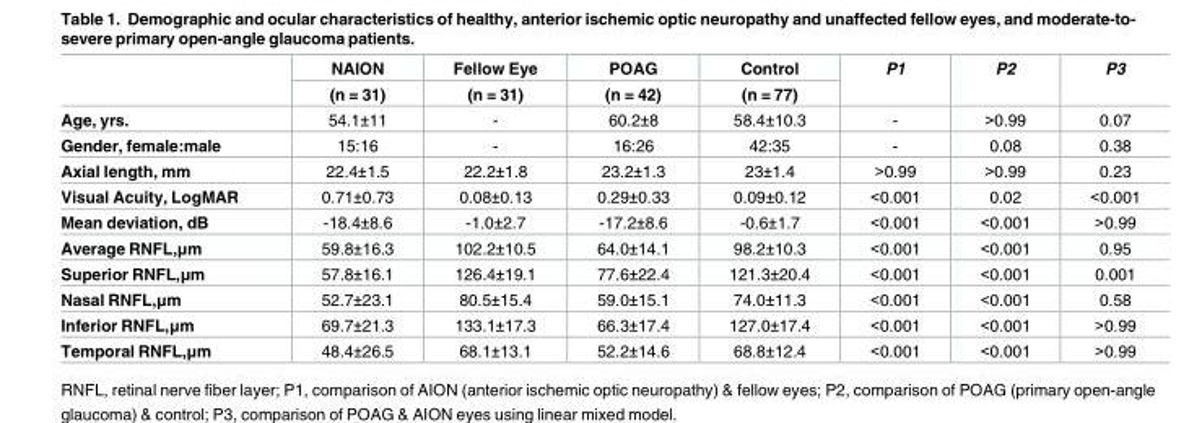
<table><thead><tr><td rowspan="2"></td><td rowspan="2">NAION (n = 31)</td><td rowspan="2">Fellow Eye (n = 31)</td><td rowspan="2">POAG (n = 42)</td><td rowspan="2">Control (n = 77)</td><td rowspan="2">P1</td><td rowspan="2">P2</td><td rowspan="2">P3</td></tr><tr></tr></thead><tbody><tr><td>Age, yrs.</td><td>54.1±11</td><td>-</td><td>60.2±8</td><td>58.4±10.3</td><td>-</td><td>&gt;0.99</td><td>0.07</td></tr><tr><td>Gender, female:male</td><td>15:16</td><td>-</td><td>16:26</td><td>42:35</td><td>-</td><td>0.08</td><td>0.38</td></tr><tr><td>Axial length, mm</td><td>22.4±1.5</td><td>22.2±1.8</td><td>23.2±1.3</td><td>23±1.4</td><td>&gt;0.99</td><td>&gt;0.99</td><td>0.23</td></tr><tr><td>Visual Acuity, LogMAR</td><td>0.71±0.73</td><td>0.08±0.13</td><td>0.29±0.33</td><td>0.09±0.12</td><td>&lt;0.001</td><td>0.02</td><td>&lt;0.001</td></tr><tr><td>Mean deviation, dB</td><td>-18.4±8.6</td><td>-1.0±2.7</td><td>-17.2±8.6</td><td>-0.6±1.7</td><td>&lt;0.001</td><td>&lt;0.001</td><td>&gt;0.99</td></tr><tr><td>Average RNFL,μm</td><td>59.8±16.3</td><td>102.2±10.5</td><td>64.0±14.1</td><td>98.2±10.3</td><td>&lt;0.001</td><td>&lt;0.001</td><td>0.95</td></tr><tr><td>Superior RNFL,μm</td><td>57.8±16.1</td><td>126.4±19.1</td><td>77.6±22.4</td><td>121.3±20.4</td><td>&lt;0.001</td><td>&lt;0.001</td><td>0.001</td></tr><tr><td>Nasal RNFL,μm</td><td>52.7±23.1</td><td>80.5±15.4</td><td>59.0±15.1</td><td>74.0±11.3</td><td>&lt;0.001</td><td>&lt;0.001</td><td>0.58</td></tr><tr><td>Inferior RNFL,μm</td><td>69.7±21.3</td><td>133.1±17.3</td><td>66.3±17.4</td><td>127.0±17.4</td><td>&lt;0.001</td><td>&lt;0.001</td><td>&gt;0.99</td></tr><tr><td>Temporal RNFL,μm</td><td>48.4±26.5</td><td>68.1±13.1</td><td>52.2±14.6</td><td>68.8±12.4</td><td>&lt;0.001</td><td>&lt;0.001</td><td>&gt;0.99</td></tr></tbody></table>